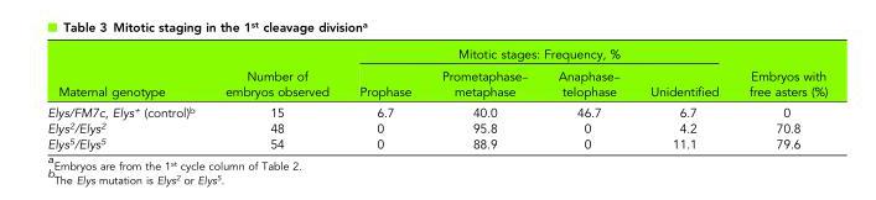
<table><thead><tr><td rowspan="2">Maternal genotype</td><td rowspan="2">Number of embryos observed</td><td colspan="4">Mitotic stages: Frequency, %</td><td rowspan="2">Embryos with free asters (%)</td></tr><tr><td>Prophase</td><td>Prometaphase– metaphase</td><td>Anaphase– telophase</td><td>Unidentified</td></tr></thead><tbody><tr><td>Elys/FM7c, Elys<sup>+</sup> (control)<sup>b</sup></td><td>15</td><td>6.7</td><td>40.0</td><td>46.7</td><td>6.7</td><td>0</td></tr><tr><td>Elys<sup>2</sup>/Elys<sup>2</sup></td><td>48</td><td>0</td><td>95.8</td><td>0</td><td>4.2</td><td>70.8</td></tr><tr><td>Elys<sup>5</sup>/Elys<sup>5</sup></td><td>54</td><td>0</td><td>88.9</td><td>0</td><td>11.1</td><td>79.6</td></tr></tbody></table>